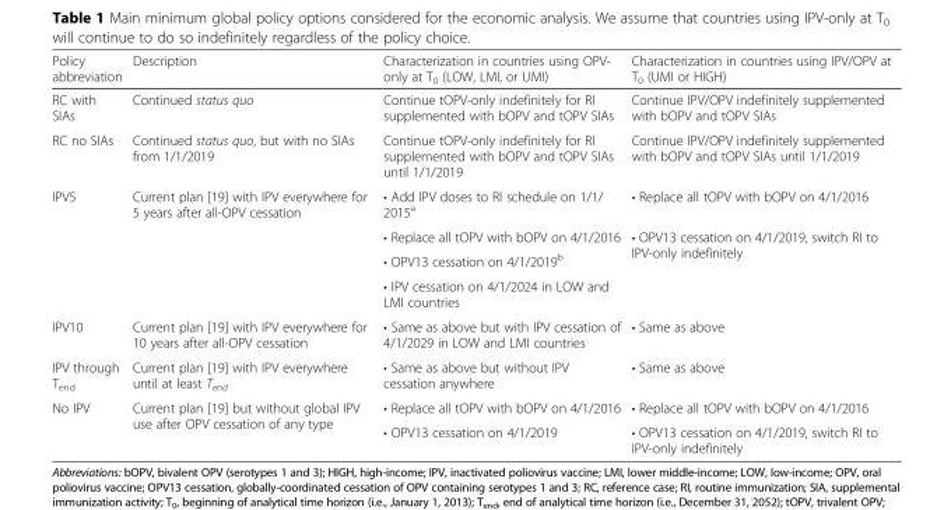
<table><thead><tr><td>Policy abbreviation</td><td>Description</td><td>Characterization in countries using OPV- only at T<sub>0</sub> (LOW, LMI, or UMI)</td><td>Characterization in countries using IPV/OPV at T<sub>0</sub> (UMI or HIGH)</td></tr></thead><tbody><tr><td>RC with SIAs</td><td>Continued status quo</td><td>Continue tOPV-only indefinitely for RI supplemented with bOPV and tOPV SIAs</td><td>Continue IPV/OPV indefinitely supplemented with bOPV and tOPV SIAs</td></tr><tr><td>RC no SIAs</td><td>Continued status quo, but with no SIAs from 1/1/2019</td><td>Continue tOPV-only indefinitely for RI supplemented with bOPV and tOPV SIAs until 1/1/2019</td><td>Continue IPV/OPV indefinitely supplemented with bOPV and tOPV SIAs until 1/1/2019</td></tr><tr><td rowspan="4">IPV5</td><td rowspan="4">Current plan [19] with IPV everywhere for 5 years after all-OPV cessation</td><td>• Add IPV doses to RI schedule on 1/1/ 2015<sup>a</sup></td><td>• Replace all tOPV with bOPV on 4/1/2016</td></tr><tr><td>• Replace all tOPV with bOPV on 4/1/2016</td><td rowspan="3">• OPV13 cessation on 4/1/2019, switch RI to IPV-only indefinitely</td></tr><tr><td>• OPV13 cessation on 4/1/2019<sup>b</sup></td></tr><tr><td>• IPV cessation on 4/1/2024 in LOW and LMI countries</td></tr><tr><td>IPV10</td><td>Current plan [19] with IPV everywhere for 10 years after all-OPV cessation</td><td>• Same as above but with IPV cessation of 4/1/2029 in LOW and LMI countries</td><td>• Same as above</td></tr><tr><td>IPV through T<sub>end</sub></td><td>Current plan [19] with IPV everywhere until at least T<sub>end</sub></td><td>• Same as above but without IPV cessation anywhere</td><td>• Same as above</td></tr><tr><td rowspan="2">No IPV</td><td rowspan="2">Current plan [19] but without global IPV use after OPV cessation of any type</td><td>• Replace all tOPV with bOPV on 4/1/2016</td><td>• Replace all tOPV with bOPV on 4/1/2016</td></tr><tr><td>• OPV13 cessation on 4/1/2019</td><td>• OPV13 cessation on 4/1/2019, switch RI to IPV-only indefinitely</td></tr></tbody></table>